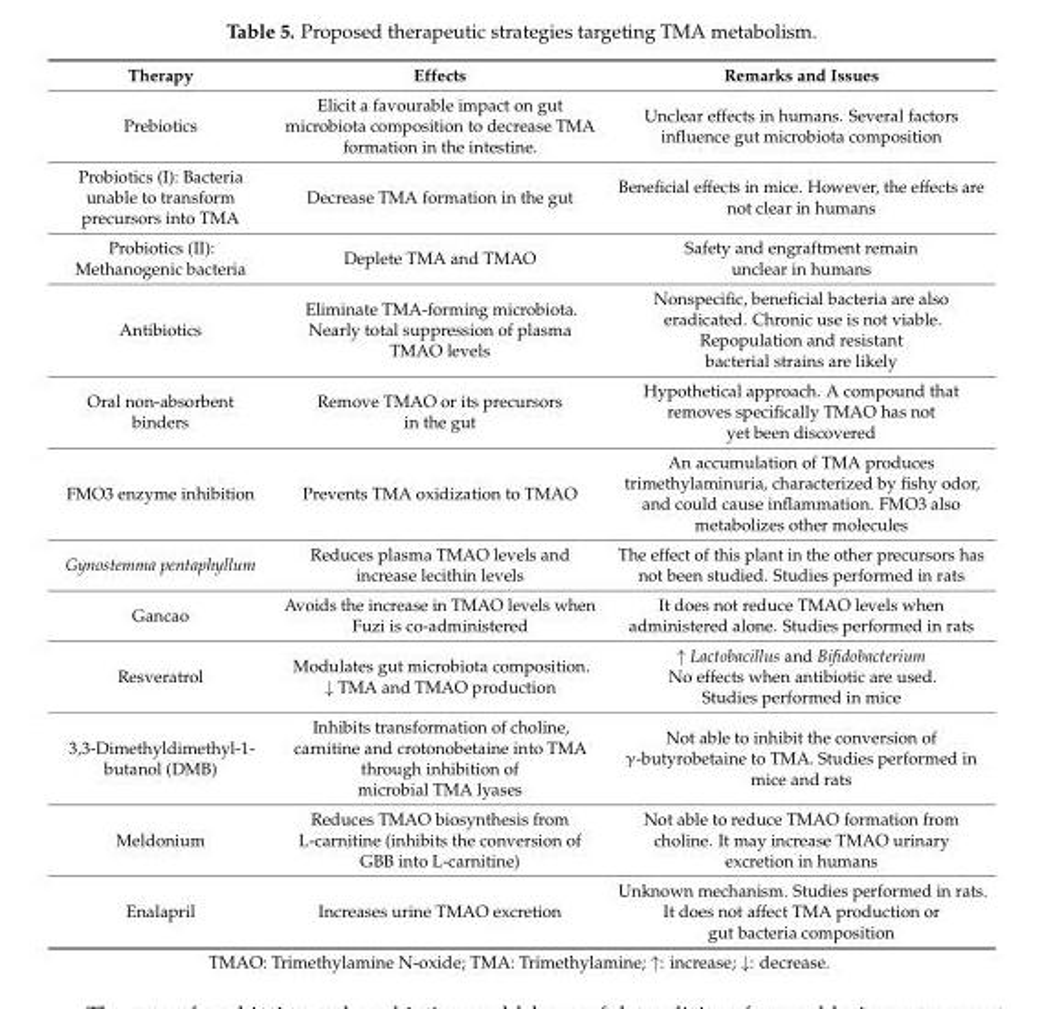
<table><thead><tr><td>Therapy</td><td>Effects</td><td>Remarks and Issues</td></tr></thead><tbody><tr><td>Prebiotics</td><td>Elicit a favourable impact on gut microbiota composition to decrease TMA formation in the intestine.</td><td>Unclear effects in humans. Several factors influence gut microbiota composition</td></tr><tr><td>Probiotics (I): Bacteria unable to transform precursors into TMA</td><td>Decrease TMA formation in the gut</td><td>Beneficial effects in mice. However, the effects are not clear in humans</td></tr><tr><td>Probiotics (II): Methanogenic bacteria</td><td>Deplete TMA and TMAO</td><td>Safety and engraftment remain unclear in humans</td></tr><tr><td>Antibiotics</td><td>Eliminate TMA-forming microbiota. Nearly total suppression of plasma TMAO levels</td><td>Nonspecific, beneficial bacteria are also eradicated. Chronic use is not viable. Repopulation and resistant bacterial strains are likely</td></tr><tr><td>Oral non-absorbent binders</td><td>Remove TMAO or its precursors in the gut</td><td>Hypothetical approach. A compound that removes specifically TMAO has not yet been discovered</td></tr><tr><td>FMO3 enzyme inhibition</td><td>Prevents TMA oxidization to TMAO</td><td>An accumulation of TMA produces trimethylaminuria, characterized by fishy odor, and could cause inflammation. FMO3 also metabolizes other molecules</td></tr><tr><td>Gynostemma pentaphyllum</td><td>Reduces plasma TMAO levels and increase lecithin levels</td><td>The effect of this plant in the other precursors has not been studied. Studies performed in rats</td></tr><tr><td>Gancao</td><td>Avoids the increase in TMAO levels when Fuzi is co-administered</td><td>It does not reduce TMAO levels when administered alone. Studies performed in rats</td></tr><tr><td>Resveratrol</td><td>Modulates gut microbiota composition. ↓ TMA and TMAO production</td><td>↑ Lactobacillus and Bifidobacterium No effects when antibiotic are used. Studies performed in mice</td></tr><tr><td>3,3-Dimethyldimethyl-1- butanol (DMB)</td><td>Inhibits transformation of choline, carnitine and crotonobetaine into TMA through inhibition of microbial TMA lyases</td><td>Not able to inhibit the conversion of γ-butyrobetaine to TMA. Studies performed in mice and rats</td></tr><tr><td>Meldonium</td><td>Reduces TMAO biosynthesis from L-carnitine (inhibits the conversion of GBB into L-carnitine)</td><td>Not able to reduce TMAO formation from choline. It may increase TMAO urinary excretion in humans</td></tr><tr><td>Enalapril</td><td>Increases urine TMAO excretion</td><td>Unknown mechanism. Studies performed in rats. It does not affect TMA production or gut bacteria composition</td></tr></tbody></table>